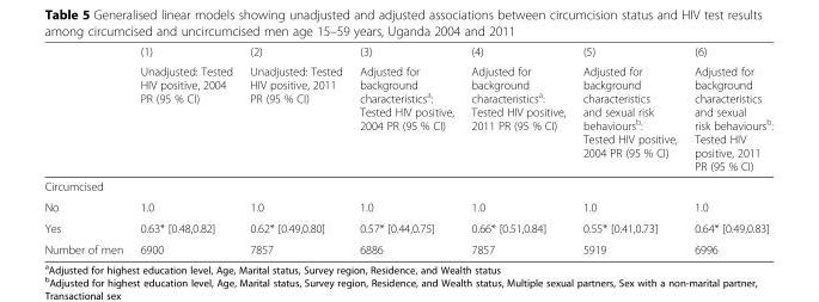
<table><thead><tr><td rowspan="2"></td><td rowspan="2">(1) Unadjusted: Tested HIV positive, 2004 PR (95 % CI)</td><td rowspan="2">(2) Unadjusted: Tested HIV positive, 2011 PR (95 % CI)</td><td rowspan="2">(3) Adjusted for background characteristics<sup>a</sup>: Tested HIV positive, 2004 PR (95 % CI)</td><td rowspan="2">(4) Adjusted for background characteristics<sup>a</sup>: Tested HIV positive, 2011 PR (95 % CI)</td><td rowspan="2">(5) Adjusted for background characteristics and sexual risk behaviours<sup>b</sup>: Tested HIV positive, 2004 PR (95 % CI)</td><td rowspan="2">(6) Adjusted for background characteristics and sexual risk behaviours<sup>b</sup>: Tested HIV positive, 2011 PR (95 % CI)</td></tr><tr></tr></thead><tbody><tr><td colspan="7">Circumcised</td></tr><tr><td>No</td><td>1.0</td><td>1.0</td><td>1.0</td><td>1.0</td><td>1.0</td><td>1.0</td></tr><tr><td>Yes</td><td>0.63* [0.48,0.82]</td><td>0.62* [0.49,0.80]</td><td>0.57* [0.44,0.75]</td><td>0.66* [0.51,0.84]</td><td>0.55* [0.41,0.73]</td><td>0.64* [0.49,0.83]</td></tr><tr><td>Number of men</td><td>6900</td><td>7857</td><td>6886</td><td>7857</td><td>5919</td><td>6996</td></tr></tbody></table>